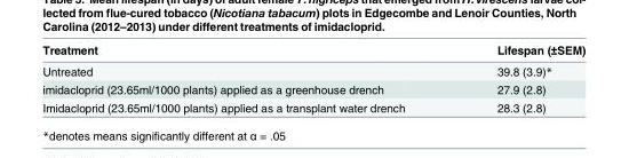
<table><thead><tr><td>Treatment</td><td>Lifespan (±SEM)</td></tr></thead><tbody><tr><td>Untreated</td><td>39.8 (3.9)*</td></tr><tr><td>imidacloprid (23.65ml/1000 plants) applied as a greenhouse drench</td><td>27.9 (2.8)</td></tr><tr><td>Imidacloprid (23.65ml/1000 plants) applied as a transplant water drench</td><td>28.3 (2.8)</td></tr></tbody></table>